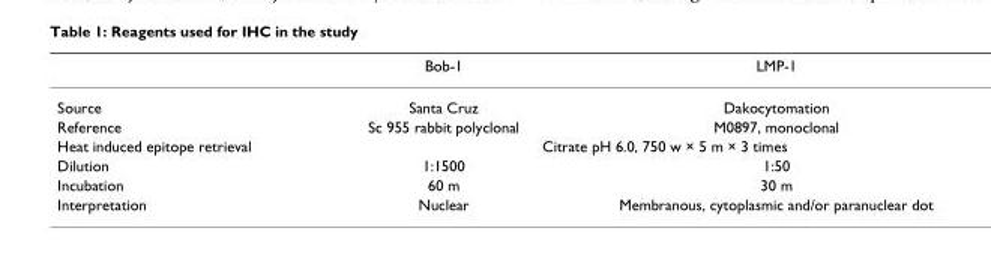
<table><thead><tr><td></td><td>Bob-1</td><td>LMP-1</td></tr></thead><tbody><tr><td>Source</td><td>Santa Cruz</td><td>Dakocytomation</td></tr><tr><td>Reference</td><td>Sc 955 rabbit polyclonal</td><td>M0897, monoclonal</td></tr><tr><td>Heat induced epitope retrieval</td><td colspan="2">Citrate pH 6.0, 750 w × 5 m × 3 times</td></tr><tr><td>Dilution</td><td>1:1500</td><td>1:50</td></tr><tr><td>Incubation</td><td>60 m</td><td>30 m</td></tr><tr><td>Interpretation</td><td>Nuclear</td><td>Membranous, cytoplasmic and/or paranuclear dot</td></tr></tbody></table>